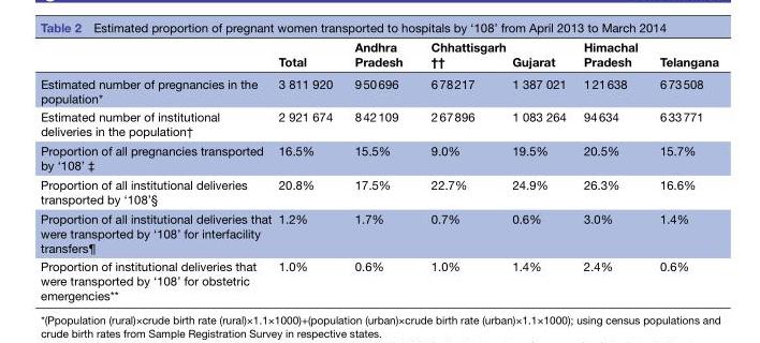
<table><thead><tr><td></td><td>Total</td><td>Andhra Pradesh</td><td>Chhattisgarh ††</td><td>Gujarat</td><td>Himachal Pradesh</td><td>Telangana</td></tr></thead><tbody><tr><td>Estimated number of pregnancies in the population*</td><td>3 811 920</td><td>9 50 696</td><td>6 78 217</td><td>1 387 021</td><td>1 21 638</td><td>6 73 508</td></tr><tr><td>Estimated number of institutional deliveries in the population†</td><td>2 921 674</td><td>8 42 109</td><td>2 67 896</td><td>1 083 264</td><td>94 634</td><td>6 33 771</td></tr><tr><td>Proportion of all pregnancies transported by ‘108’ ‡</td><td>16.5%</td><td>15.5%</td><td>9.0%</td><td>19.5%</td><td>20.5%</td><td>15.7%</td></tr><tr><td>Proportion of all institutional deliveries transported by ‘108’§</td><td>20.8%</td><td>17.5%</td><td>22.7%</td><td>24.9%</td><td>26.3%</td><td>16.6%</td></tr><tr><td>Proportion of all institutional deliveries that were transported by ‘108’ for interfacility transfers¶</td><td>1.2%</td><td>1.7%</td><td>0.7%</td><td>0.6%</td><td>3.0%</td><td>1.4%</td></tr><tr><td>Proportion of institutional deliveries that were transported by ‘108’ for obstetric emergencies**</td><td>1.0%</td><td>0.6%</td><td>1.0%</td><td>1.4%</td><td>2.4%</td><td>0.6%</td></tr></tbody></table>